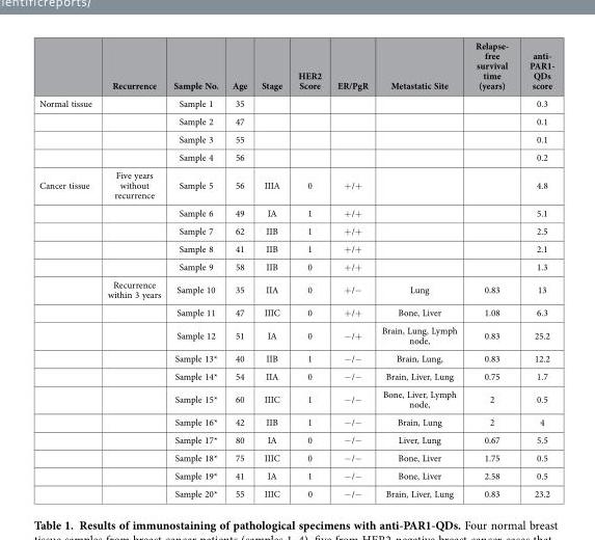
<table><thead><tr><td></td><td>Recurrence</td><td>Sample No.</td><td>Age</td><td>Stage</td><td>HER2 Score</td><td>ER/PgR</td><td>Metastatic Site</td><td>Relapse- free survival time (years)</td><td>anti- PAR1- QDs score</td></tr></thead><tbody><tr><td rowspan="4">Normal tissue</td><td></td><td>Sample 1</td><td>35</td><td></td><td></td><td></td><td></td><td></td><td>0.3</td></tr><tr><td></td><td>Sample 2</td><td>47</td><td></td><td></td><td></td><td></td><td></td><td>0.1</td></tr><tr><td></td><td>Sample 3</td><td>55</td><td></td><td></td><td></td><td></td><td></td><td>0.1</td></tr><tr><td></td><td>Sample 4</td><td>56</td><td></td><td></td><td></td><td></td><td></td><td>0.2</td></tr><tr><td rowspan="16">Cancer tissue</td><td>Five years without recurrence</td><td>Sample 5</td><td>56</td><td>IIIA</td><td>0</td><td>+ /+</td><td></td><td></td><td>4.8</td></tr><tr><td></td><td>Sample 6</td><td>49</td><td>IA</td><td>1</td><td>+ /+</td><td></td><td></td><td>5.1</td></tr><tr><td></td><td>Sample 7</td><td>62</td><td>IIB</td><td>1</td><td>+ /+</td><td></td><td></td><td>2.5</td></tr><tr><td></td><td>Sample 8</td><td>41</td><td>IIB</td><td>1</td><td>+ /+</td><td></td><td></td><td>2.1</td></tr><tr><td></td><td>Sample 9</td><td>58</td><td>IIB</td><td>0</td><td>+ /+</td><td></td><td></td><td>1.3</td></tr><tr><td>Recurrence within 3 years</td><td>Sample 10</td><td>35</td><td>IIA</td><td>0</td><td>+ /−</td><td>Lung</td><td>0.83</td><td>13</td></tr><tr><td></td><td>Sample 11</td><td>47</td><td>IIIC</td><td>0</td><td>+ /+</td><td>Bone, Liver</td><td>1.08</td><td>6.3</td></tr><tr><td></td><td>Sample 12</td><td>51</td><td>IA</td><td>0</td><td>− /+</td><td>Brain, Lung, Lymph node,</td><td>0.83</td><td>25.2</td></tr><tr><td></td><td>Sample 13*</td><td>40</td><td>IIB</td><td>1</td><td>− /−</td><td>Brain, Lung,</td><td>0.83</td><td>12.2</td></tr><tr><td></td><td>Sample 14*</td><td>54</td><td>IIA</td><td>0</td><td>− /−</td><td>Brain, Liver, Lung</td><td>0.75</td><td>1.7</td></tr><tr><td></td><td>Sample 15*</td><td>60</td><td>IIIC</td><td>1</td><td>− /−</td><td>Bone, Liver, Lymph node,</td><td>2</td><td>0.5</td></tr><tr><td></td><td>Sample 16*</td><td>42</td><td>IIB</td><td>1</td><td>− /−</td><td>Brain, Lung</td><td>2</td><td>4</td></tr><tr><td></td><td>Sample 17*</td><td>80</td><td>IA</td><td>0</td><td>− /−</td><td>Liver, Lung</td><td>0.67</td><td>5.5</td></tr><tr><td></td><td>Sample 18*</td><td>75</td><td>IIIC</td><td>0</td><td>− /−</td><td>Bone, Liver</td><td>1.75</td><td>0.5</td></tr><tr><td></td><td>Sample 19*</td><td>41</td><td>IA</td><td>1</td><td>− /−</td><td>Bone, Liver</td><td>2.58</td><td>0.5</td></tr><tr><td></td><td>Sample 20*</td><td>55</td><td>IIIC</td><td>0</td><td>− /−</td><td>Brain, Liver, Lung</td><td>0.83</td><td>23.2</td></tr></tbody></table>